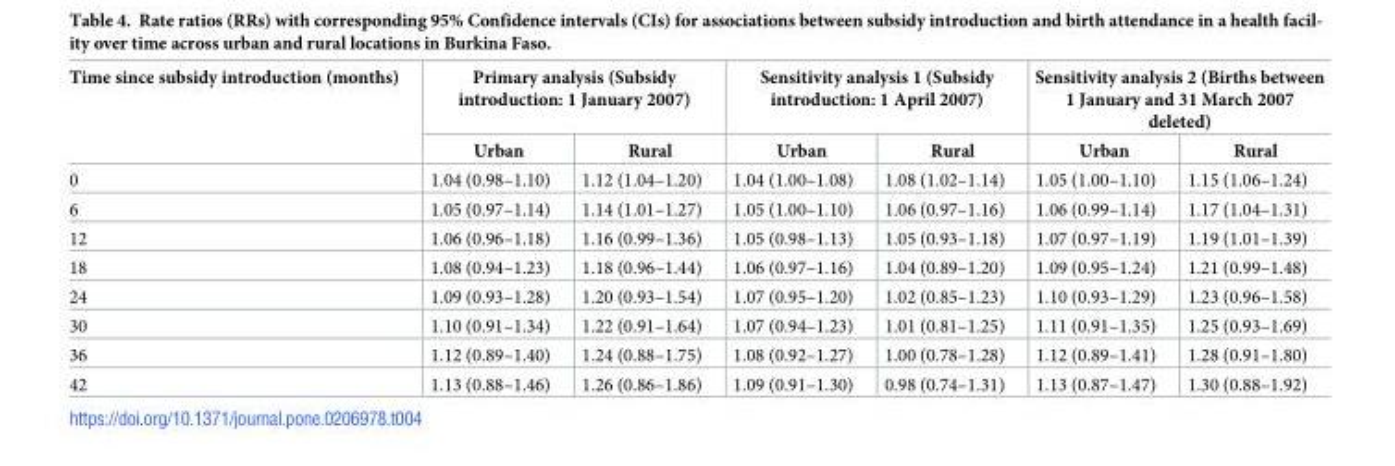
<table><thead><tr><td rowspan="2">Time since subsidy introduction (months)</td><td colspan="2">Primary analysis (Subsidy introduction: 1 January 2007)</td><td colspan="2">Sensitivity analysis 1 (Subsidy introduction: 1 April 2007)</td><td colspan="2">Sensitivity analysis 2 (Births between 1 January and 31 March 2007 deleted)</td></tr><tr><td>Urban</td><td>Rural</td><td>Urban</td><td>Rural</td><td>Urban</td><td>Rural</td></tr></thead><tbody><tr><td>0</td><td>1.04 (0.98–1.10)</td><td>1.12 (1.04–1.20)</td><td>1.04 (1.00–1.08)</td><td>1.08 (1.02–1.14)</td><td>1.05 (1.00–1.10)</td><td>1.15 (1.06–1.24)</td></tr><tr><td>6</td><td>1.05 (0.97–1.14)</td><td>1.14 (1.01–1.27)</td><td>1.05 (1.00–1.10)</td><td>1.06 (0.97–1.16)</td><td>1.06 (0.99–1.14)</td><td>1.17 (1.04–1.31)</td></tr><tr><td>12</td><td>1.06 (0.96–1.18)</td><td>1.16 (0.99–1.36)</td><td>1.05 (0.98–1.13)</td><td>1.05 (0.93–1.18)</td><td>1.07 (0.97–1.19)</td><td>1.19 (1.01–1.39)</td></tr><tr><td>18</td><td>1.08 (0.94–1.23)</td><td>1.18 (0.96–1.44)</td><td>1.06 (0.97–1.16)</td><td>1.04 (0.89–1.20)</td><td>1.09 (0.95–1.24)</td><td>1.21 (0.99–1.48)</td></tr><tr><td>24</td><td>1.09 (0.93–1.28)</td><td>1.20 (0.93–1.54)</td><td>1.07 (0.95–1.20)</td><td>1.02 (0.85–1.23)</td><td>1.10 (0.93–1.29)</td><td>1.23 (0.96–1.58)</td></tr><tr><td>30</td><td>1.10 (0.91–1.34)</td><td>1.22 (0.91–1.64)</td><td>1.07 (0.94–1.23)</td><td>1.01 (0.81–1.25)</td><td>1.11 (0.91–1.35)</td><td>1.25 (0.93–1.69)</td></tr><tr><td>36</td><td>1.12 (0.89–1.40)</td><td>1.24 (0.88–1.75)</td><td>1.08 (0.92–1.27)</td><td>1.00 (0.78–1.28)</td><td>1.12 (0.89–1.41)</td><td>1.28 (0.91–1.80)</td></tr><tr><td>42</td><td>1.13 (0.88–1.46)</td><td>1.26 (0.86–1.86)</td><td>1.09 (0.91–1.30)</td><td>0.98 (0.74–1.31)</td><td>1.13 (0.87–1.47)</td><td>1.30 (0.88–1.92)</td></tr></tbody></table>